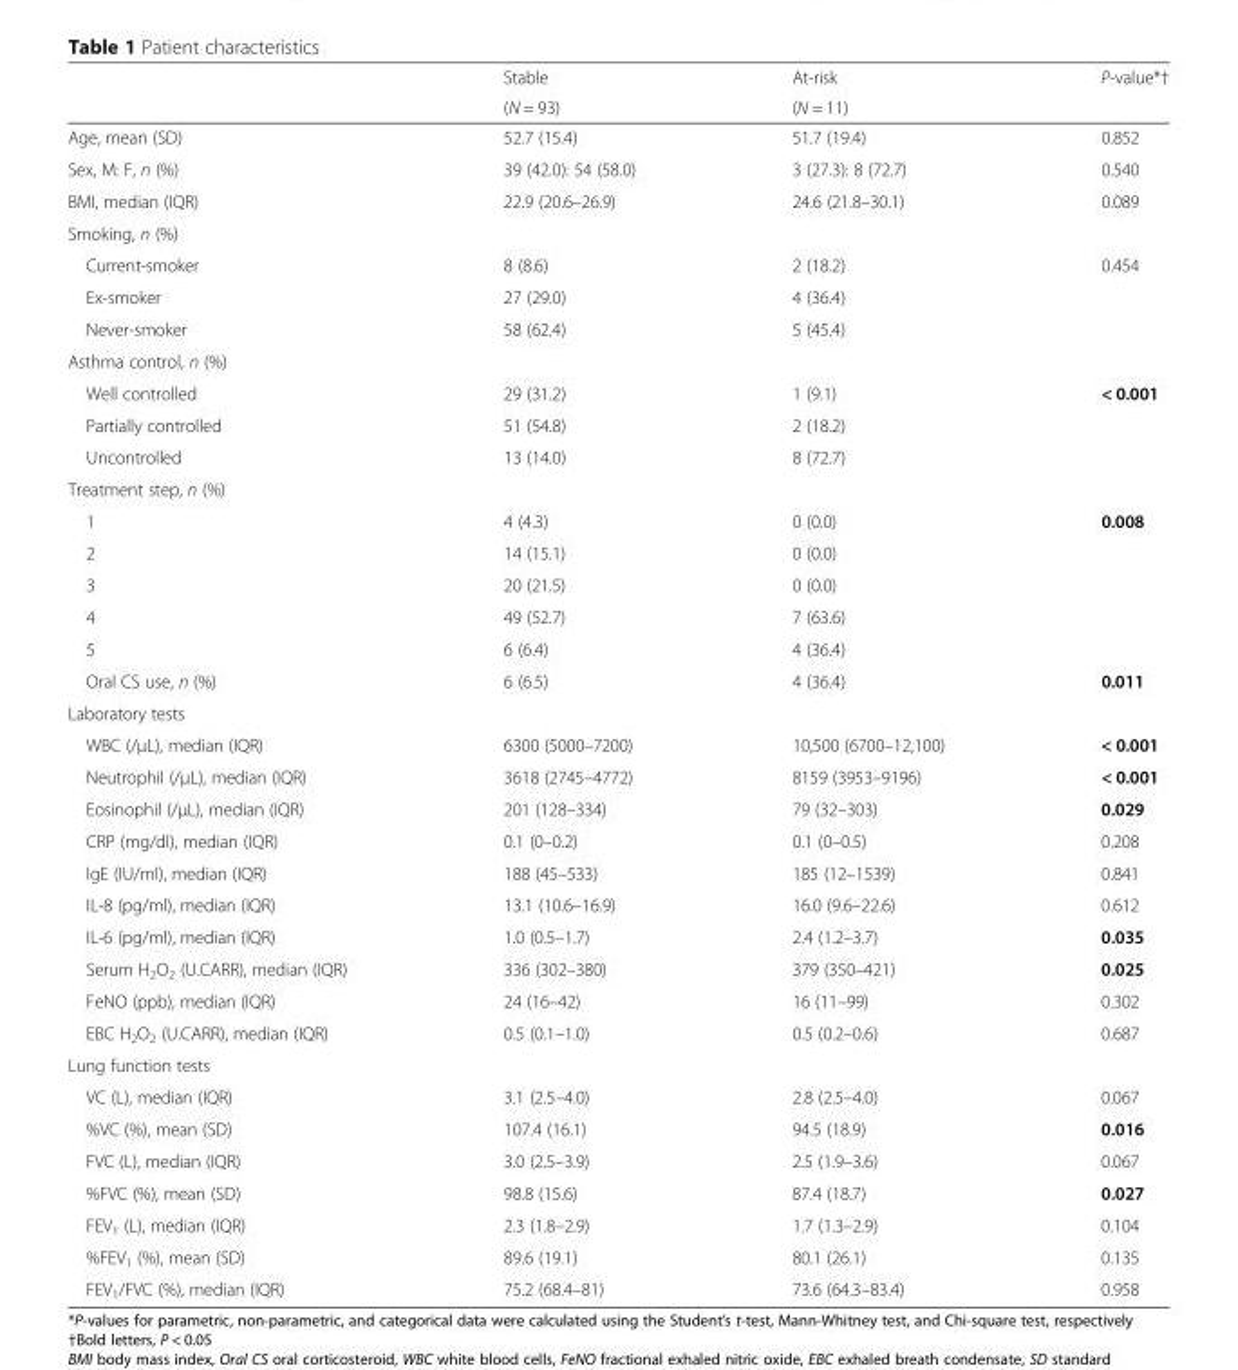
<table><thead><tr><td rowspan="2"></td><td rowspan="2">Stable (N = 93)</td><td rowspan="2">At-risk (N = 11)</td><td rowspan="2">P-value*†</td></tr><tr></tr></thead><tbody><tr><td>Age, mean (SD)</td><td>52.7 (15.4)</td><td>51.7 (19.4)</td><td>0.852</td></tr><tr><td>Sex, M: F, n (%)</td><td>39 (42.0): 54 (58.0)</td><td>3 (27.3): 8 (72.7)</td><td>0.540</td></tr><tr><td>BMI, median (IQR)</td><td>22.9 (20.6–26.9)</td><td>24.6 (21.8–30.1)</td><td>0.089</td></tr><tr><td colspan="4">Smoking, n (%)</td></tr><tr><td>Current-smoker</td><td>8 (8.6)</td><td>2 (18.2)</td><td>0.454</td></tr><tr><td>Ex-smoker</td><td>27 (29.0)</td><td>4 (36.4)</td><td></td></tr><tr><td>Never-smoker</td><td>58 (62.4)</td><td>5 (45.4)</td><td></td></tr><tr><td colspan="4">Asthma control, n (%)</td></tr><tr><td>Well controlled</td><td>29 (31.2)</td><td>1 (9.1)</td><td>&lt; 0.001</td></tr><tr><td>Partially controlled</td><td>51 (54.8)</td><td>2 (18.2)</td><td></td></tr><tr><td>Uncontrolled</td><td>13 (14.0)</td><td>8 (72.7)</td><td></td></tr><tr><td colspan="4">Treatment step, n (%)</td></tr><tr><td>1</td><td>4 (4.3)</td><td>0 (0.0)</td><td>0.008</td></tr><tr><td>2</td><td>14 (15.1)</td><td>0 (0.0)</td><td></td></tr><tr><td>3</td><td>20 (21.5)</td><td>0 (0.0)</td><td></td></tr><tr><td>4</td><td>49 (52.7)</td><td>7 (63.6)</td><td></td></tr><tr><td>5</td><td>6 (6.4)</td><td>4 (36.4)</td><td></td></tr><tr><td>Oral CS use, n (%)</td><td>6 (6.5)</td><td>4 (36.4)</td><td>0.011</td></tr><tr><td colspan="4">Laboratory tests</td></tr><tr><td>WBC (/μL), median (IQR)</td><td>6300 (5000–7200)</td><td>10,500 (6700–12,100)</td><td>&lt; 0.001</td></tr><tr><td>Neutrophil (/μL), median (IQR)</td><td>3618 (2745–4772)</td><td>8159 (3953–9196)</td><td>&lt; 0.001</td></tr><tr><td>Eosinophil (/μL), median (IQR)</td><td>201 (128–334)</td><td>79 (32–303)</td><td>0.029</td></tr><tr><td>CRP (mg/dl), median (IQR)</td><td>0.1 (0–0.2)</td><td>0.1 (0–0.5)</td><td>0.208</td></tr><tr><td>IgE (IU/ml), median (IQR)</td><td>188 (45–533)</td><td>185 (12–1539)</td><td>0.841</td></tr><tr><td>IL-8 (pg/ml), median (IQR)</td><td>13.1 (10.6–16.9)</td><td>16.0 (9.6–22.6)</td><td>0.612</td></tr><tr><td>IL-6 (pg/ml), median (IQR)</td><td>1.0 (0.5–1.7)</td><td>2.4 (1.2–3.7)</td><td>0.035</td></tr><tr><td>Serum H<sub>2</sub>O<sub>2</sub> (U.CARR), median (IQR)</td><td>336 (302–380)</td><td>379 (350–421)</td><td>0.025</td></tr><tr><td>FeNO (ppb), median (IQR)</td><td>24 (16–42)</td><td>16 (11–99)</td><td>0.302</td></tr><tr><td>EBC H<sub>2</sub>O<sub>2</sub> (U.CARR), median (IQR)</td><td>0.5 (0.1–1.0)</td><td>0.5 (0.2–0.6)</td><td>0.687</td></tr><tr><td colspan="4">Lung function tests</td></tr><tr><td>VC (L), median (IQR)</td><td>3.1 (2.5–4.0)</td><td>2.8 (2.5–4.0)</td><td>0.067</td></tr><tr><td>%VC (%), mean (SD)</td><td>107.4 (16.1)</td><td>94.5 (18.9)</td><td>0.016</td></tr><tr><td>FVC (L), median (IQR)</td><td>3.0 (2.5–3.9)</td><td>2.5 (1.9–3.6)</td><td>0.067</td></tr><tr><td>%FVC (%), mean (SD)</td><td>98.8 (15.6)</td><td>87.4 (18.7)</td><td>0.027</td></tr><tr><td>FEV<sub>1</sub> (L), median (IQR)</td><td>2.3 (1.8–2.9)</td><td>1.7 (1.3–2.9)</td><td>0.104</td></tr><tr><td>%FEV<sub>1</sub> (%), mean (SD)</td><td>89.6 (19.1)</td><td>80.1 (26.1)</td><td>0.135</td></tr><tr><td>FEV<sub>1</sub>/FVC (%), median (IQR)</td><td>75.2 (68.4–81)</td><td>73.6 (64.3–83.4)</td><td>0.958</td></tr></tbody></table>